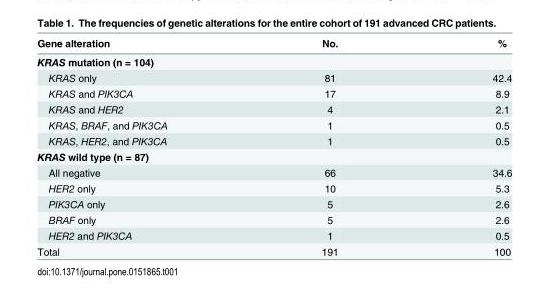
<table><thead><tr><td>Gene alteration</td><td>No.</td><td>%</td></tr></thead><tbody><tr><td colspan="3">KRAS mutation (n = 104)</td></tr><tr><td>KRAS only</td><td>81</td><td>42.4</td></tr><tr><td>KRAS and PIK3CA</td><td>17</td><td>8.9</td></tr><tr><td>KRAS and HER2</td><td>4</td><td>2.1</td></tr><tr><td>KRAS, BRAF, and PIK3CA</td><td>1</td><td>0.5</td></tr><tr><td>KRAS, HER2, and PIK3CA</td><td>1</td><td>0.5</td></tr><tr><td colspan="3">KRAS wild type (n = 87)</td></tr><tr><td>All negative</td><td>66</td><td>34.6</td></tr><tr><td>HER2 only</td><td>10</td><td>5.3</td></tr><tr><td>PIK3CA only</td><td>5</td><td>2.6</td></tr><tr><td>BRAF only</td><td>5</td><td>2.6</td></tr><tr><td>HER2 and PIK3CA</td><td>1</td><td>0.5</td></tr><tr><td>Total</td><td>191</td><td>100</td></tr></tbody></table>